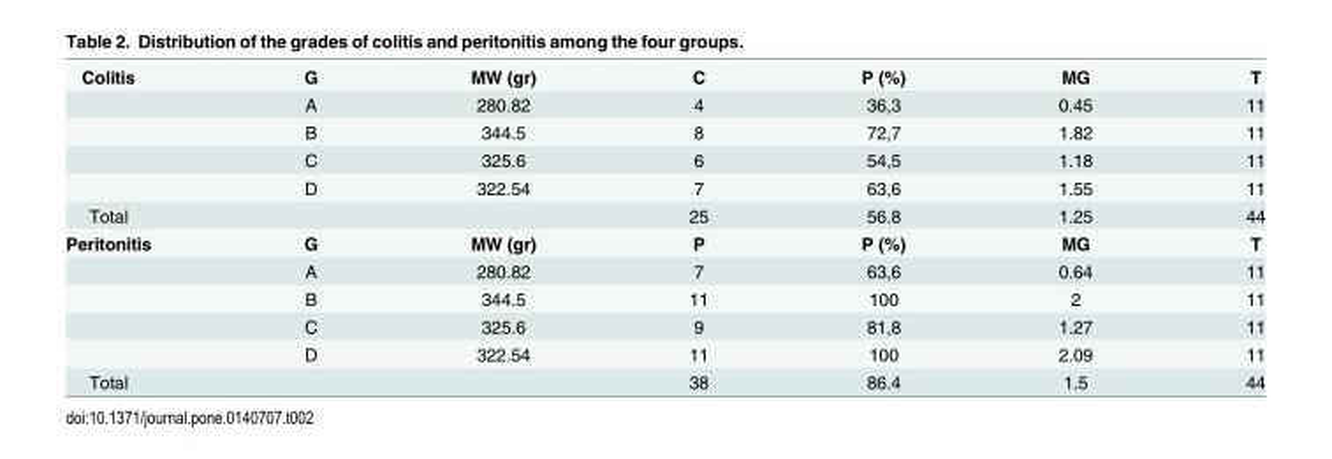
<table><tbody><tr><td rowspan="5">Colitis</td><td>G</td><td>MW (gr)</td><td>C</td><td>P (%)</td><td>MG</td><td>T</td></tr><tr><td>A</td><td>280.82</td><td>4</td><td>36,3</td><td>0.45</td><td>11</td></tr><tr><td>B</td><td>344.5</td><td>8</td><td>72,7</td><td>1.82</td><td>11</td></tr><tr><td>C</td><td>325.6</td><td>6</td><td>54,5</td><td>1.18</td><td>11</td></tr><tr><td>D</td><td>322.54</td><td>7</td><td>63,6</td><td>1.55</td><td>11</td></tr><tr><td>Total</td><td></td><td></td><td>25</td><td>56.8</td><td>1.25</td><td>44</td></tr><tr><td rowspan="5">Peritonitis</td><td>G</td><td>MW (gr)</td><td>P</td><td>P (%)</td><td>MG</td><td>T</td></tr><tr><td>A</td><td>280.82</td><td>7</td><td>63,6</td><td>0.64</td><td>11</td></tr><tr><td>B</td><td>344.5</td><td>11</td><td>100</td><td>2</td><td>11</td></tr><tr><td>C</td><td>325.6</td><td>9</td><td>81,8</td><td>1.27</td><td>11</td></tr><tr><td>D</td><td>322.54</td><td>11</td><td>100</td><td>2.09</td><td>11</td></tr><tr><td>Total</td><td></td><td></td><td>38</td><td>86.4</td><td>1.5</td><td>44</td></tr></tbody></table>